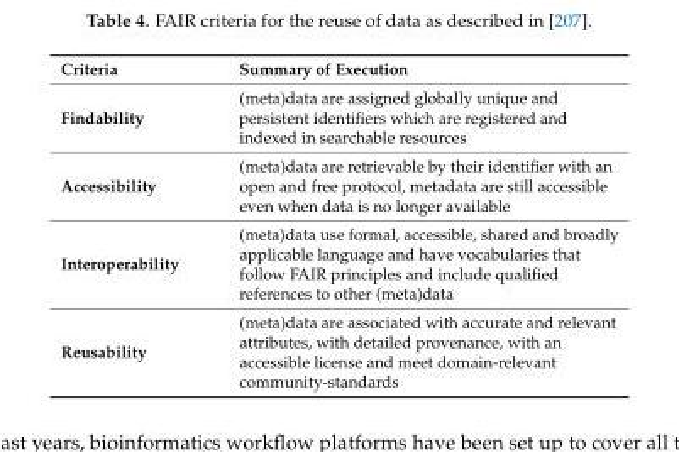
<table><thead><tr><td>Criteria</td><td>Summary of Execution</td></tr></thead><tbody><tr><td>Findability</td><td>(meta)data are assigned globally unique and persistent identifiers which are registered and indexed in searchable resources</td></tr><tr><td>Accessibility</td><td>(meta)data are retrievable by their identifier with an open and free protocol, metadata are still accessible even when data is no longer available</td></tr><tr><td>Interoperability</td><td>(meta)data use formal, accessible, shared and broadly applicable language and have vocabularies that follow FAIR principles and include qualified references to other (meta)data</td></tr><tr><td>Reusability</td><td>(meta)data are associated with accurate and relevant attributes, with detailed provenance, with an accessible license and meet domain-relevant community-standards</td></tr></tbody></table>